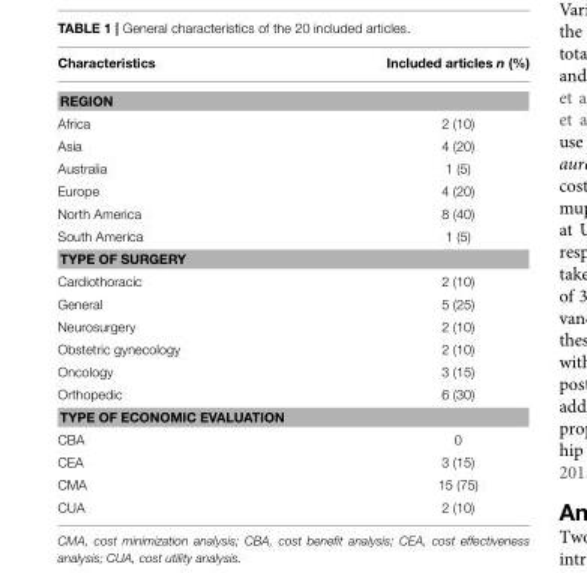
<table><thead><tr><td>Characteristics</td><td>Included articles n (%)</td></tr></thead><tbody><tr><td colspan="2">REGION</td></tr><tr><td>Africa</td><td>2 (10)</td></tr><tr><td>Asia</td><td>4 (20)</td></tr><tr><td>Australia</td><td>1 (5)</td></tr><tr><td>Europe</td><td>4 (20)</td></tr><tr><td>North America</td><td>8 (40)</td></tr><tr><td>South America</td><td>1 (5)</td></tr><tr><td colspan="2">TYPE OF SURGERY</td></tr><tr><td>Cardiothoracic</td><td>2 (10)</td></tr><tr><td>General</td><td>5 (25)</td></tr><tr><td>Neurosurgery</td><td>2 (10)</td></tr><tr><td>Obstetric gynecology</td><td>2 (10)</td></tr><tr><td>Oncology</td><td>3 (15)</td></tr><tr><td>Orthopedic</td><td>6 (30)</td></tr><tr><td colspan="2">TYPE OF ECONOMIC EVALUATION</td></tr><tr><td>CBA</td><td>0</td></tr><tr><td>CEA</td><td>3 (15)</td></tr><tr><td>CMA</td><td>15 (75)</td></tr><tr><td>CUA</td><td>2 (10)</td></tr></tbody></table>